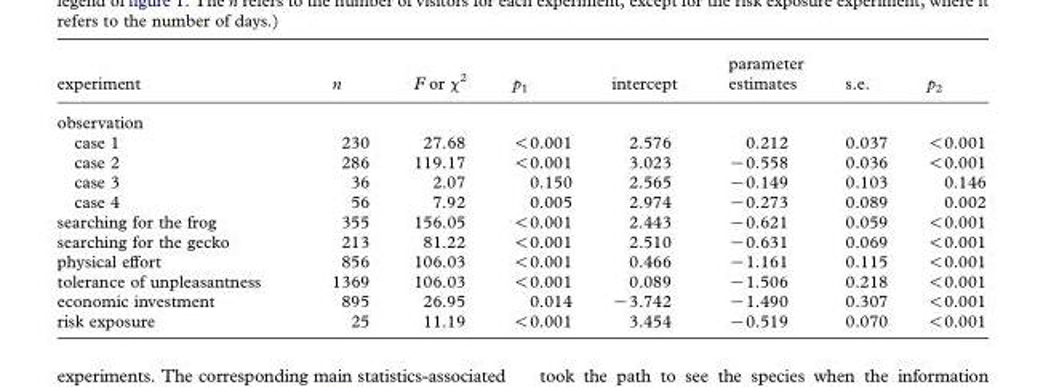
<table><thead><tr><td>experiment</td><td>n</td><td>F or Χ<sup>2</sup></td><td>p<sub>1</sub></td><td>intercept</td><td>parameter estimates</td><td>s.e.</td><td>p<sub>2</sub></td></tr></thead><tbody><tr><td colspan="8">observation</td></tr><tr><td>case 1</td><td>230</td><td>27.68</td><td>&lt;0.001</td><td>2.576</td><td>0.212</td><td>0.037</td><td>&lt;0.001</td></tr><tr><td>case 2</td><td>286</td><td>119.17</td><td>&lt;0.001</td><td>3.023</td><td>−0.558</td><td>0.036</td><td>&lt;0.001</td></tr><tr><td>case 3</td><td>36</td><td>2.07</td><td>0.150</td><td>2.565</td><td>−0.149</td><td>0.103</td><td>0.146</td></tr><tr><td>case 4</td><td>56</td><td>7.92</td><td>0.005</td><td>2.974</td><td>−0.273</td><td>0.089</td><td>0.002</td></tr><tr><td>searching for the frog</td><td>355</td><td>156.05</td><td>&lt;0.001</td><td>2.443</td><td>−0.621</td><td>0.059</td><td>&lt;0.001</td></tr><tr><td>searching for the gecko</td><td>213</td><td>81.22</td><td>&lt;0.001</td><td>2.510</td><td>−0.631</td><td>0.069</td><td>&lt;0.001</td></tr><tr><td>physical effort</td><td>856</td><td>106.03</td><td>&lt;0.001</td><td>0.466</td><td>−1.161</td><td>0.115</td><td>&lt;0.001</td></tr><tr><td>tolerance of unpleasantness</td><td>1369</td><td>106.03</td><td>&lt;0.001</td><td>0.089</td><td>−1.506</td><td>0.218</td><td>&lt;0.001</td></tr><tr><td>economic investment</td><td>895</td><td>26.95</td><td>0.014</td><td>−3.742</td><td>−1.490</td><td>0.307</td><td>&lt;0.001</td></tr><tr><td>risk exposure</td><td>25</td><td>11.19</td><td>&lt;0.001</td><td>3.454</td><td>−0.519</td><td>0.070</td><td>&lt;0.001</td></tr></tbody></table>